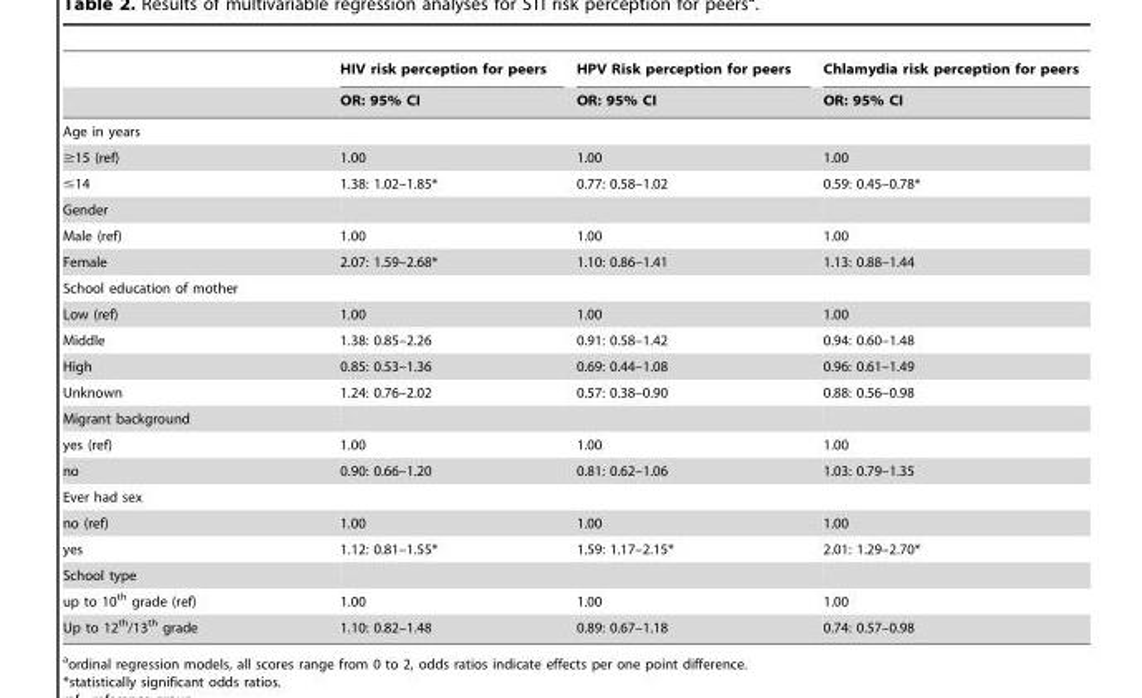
<table><thead><tr><td rowspan="2"></td><td rowspan="2">HIV risk perception for peers OR: 95% CI</td><td rowspan="2">HPV Risk perception for peers OR: 95% CI</td><td rowspan="2">Chlamydia risk perception for peers OR: 95% CI</td></tr><tr></tr></thead><tbody><tr><td colspan="4">Age in years</td></tr><tr><td>≥15 (ref)</td><td>1.00</td><td>1.00</td><td>1.00</td></tr><tr><td>≤14</td><td>1.38: 1.02–1.85*</td><td>0.77: 0.58–1.02</td><td>0.59: 0.45–0.78*</td></tr><tr><td colspan="4">Gender</td></tr><tr><td>Male (ref)</td><td>1.00</td><td>1.00</td><td>1.00</td></tr><tr><td>Female</td><td>2.07: 1.59–2.68*</td><td>1.10: 0.86–1.41</td><td>1.13: 0.88–1.44</td></tr><tr><td colspan="4">School education of mother</td></tr><tr><td>Low (ref)</td><td>1.00</td><td>1.00</td><td>1.00</td></tr><tr><td>Middle</td><td>1.38: 0.85–2.26</td><td>0.91: 0.58–1.42</td><td>0.94: 0.60–1.48</td></tr><tr><td>High</td><td>0.85: 0.53–1.36</td><td>0.69: 0.44–1.08</td><td>0.96: 0.61–1.49</td></tr><tr><td>Unknown</td><td>1.24: 0.76–2.02</td><td>0.57: 0.38–0.90</td><td>0.88: 0.56–0.98</td></tr><tr><td colspan="4">Migrant background</td></tr><tr><td>yes (ref)</td><td>1.00</td><td>1.00</td><td>1.00</td></tr><tr><td>no</td><td>0.90: 0.66–1.20</td><td>0.81: 0.62–1.06</td><td>1.03: 0.79–1.35</td></tr><tr><td colspan="4">Ever had sex</td></tr><tr><td>no (ref)</td><td>1.00</td><td>1.00</td><td>1.00</td></tr><tr><td>yes</td><td>1.12: 0.81–1.55*</td><td>1.59: 1.17–2.15*</td><td>2.01: 1.29–2.70*</td></tr><tr><td colspan="4">School type</td></tr><tr><td>up to 10<sup>th</sup> grade (ref)</td><td>1.00</td><td>1.00</td><td>1.00</td></tr><tr><td>Up to 12<sup>th</sup>/13<sup>th</sup> grade</td><td>1.10: 0.82–1.48</td><td>0.89: 0.67–1.18</td><td>0.74: 0.57–0.98</td></tr></tbody></table>